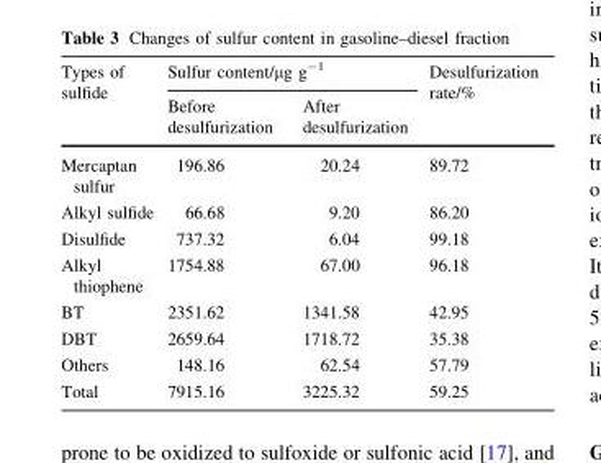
<table><thead><tr><td rowspan="2">Types of sulfide</td><td colspan="2">Sulfur content/μg g<sup>-1</sup></td><td rowspan="2">Desulfurization rate/%</td></tr><tr><td>Before desulfurization</td><td>After desulfurization</td></tr></thead><tbody><tr><td>Mercaptan sulfur</td><td>196.86</td><td>20.24</td><td>89.72</td></tr><tr><td>Alkyl sulfide</td><td>66.68</td><td>9.20</td><td>86.20</td></tr><tr><td>Disulfide</td><td>737.32</td><td>6.04</td><td>99.18</td></tr><tr><td>Alkyl thiophene</td><td>1754.88</td><td>67.00</td><td>96.18</td></tr><tr><td>BT</td><td>2351.62</td><td>1341.58</td><td>42.95</td></tr><tr><td>DBT</td><td>2659.64</td><td>1718.72</td><td>35.38</td></tr><tr><td>Others</td><td>148.16</td><td>62.54</td><td>57.79</td></tr><tr><td>Total</td><td>7915.16</td><td>3225.32</td><td>59.25</td></tr></tbody></table>